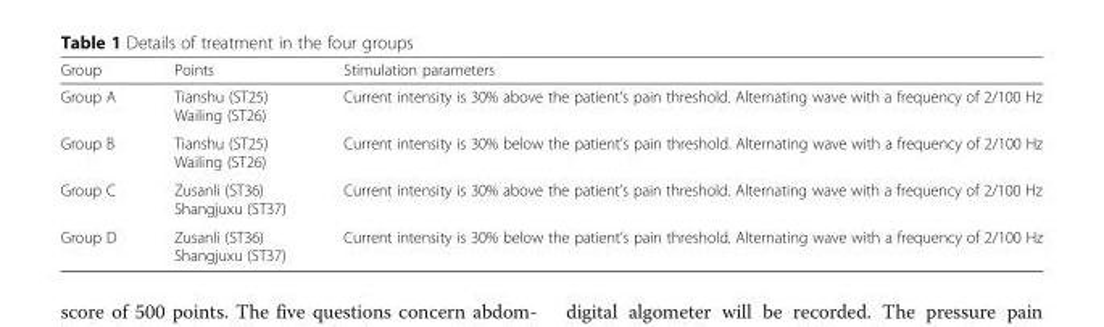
<table><thead><tr><td>Group</td><td>Points</td><td>Stimulation parameters</td></tr></thead><tbody><tr><td>Group A</td><td>Tianshu (ST25) Wailing (ST26)</td><td>Current intensity is 30% above the patient’s pain threshold. Alternating wave with a frequency of 2/100 Hz</td></tr><tr><td>Group B</td><td>Tianshu (ST25) Wailing (ST26)</td><td>Current intensity is 30% below the patient’s pain threshold. Alternating wave with a frequency of 2/100 Hz</td></tr><tr><td>Group C</td><td>Zusanli (ST36) Shangjuxu (ST37)</td><td>Current intensity is 30% above the patient’s pain threshold. Alternating wave with a frequency of 2/100 Hz</td></tr><tr><td>Group D</td><td>Zusanli (ST36) Shangjuxu (ST37)</td><td>Current intensity is 30% below the patient’s pain threshold. Alternating wave with a frequency of 2/100 Hz</td></tr></tbody></table>